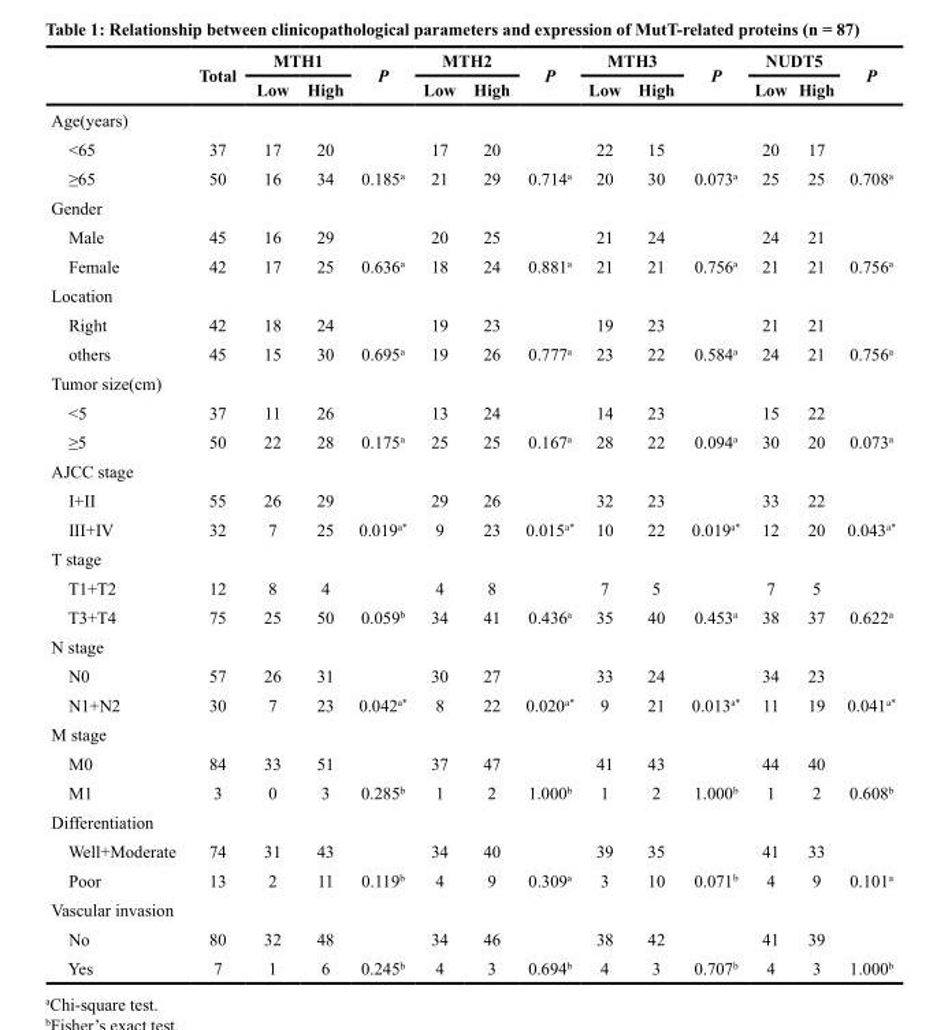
<table><thead><tr><td rowspan="2"></td><td rowspan="2">Total</td><td colspan="2">MTH1</td><td rowspan="2">P</td><td colspan="2">MTH2</td><td rowspan="2">P</td><td colspan="2">MTH3</td><td rowspan="2">P</td><td colspan="2">NUDT5</td><td rowspan="2">P</td></tr><tr><td>Low</td><td>High</td><td>Low</td><td>High</td><td>Low</td><td>High</td><td>Low</td><td>High</td></tr></thead><tbody><tr><td colspan="14">Age(years)</td></tr><tr><td>&lt;65</td><td>37</td><td>17</td><td>20</td><td></td><td>17</td><td>20</td><td></td><td>22</td><td>15</td><td></td><td>20</td><td>17</td><td></td></tr><tr><td>≥65</td><td>50</td><td>16</td><td>34</td><td>0.185<sup>a</sup></td><td>21</td><td>29</td><td>0.714<sup>a</sup></td><td>20</td><td>30</td><td>0.073<sup>a</sup></td><td>25</td><td>25</td><td>0.708<sup>a</sup></td></tr><tr><td colspan="14">Gender</td></tr><tr><td>Male</td><td>45</td><td>16</td><td>29</td><td></td><td>20</td><td>25</td><td></td><td>21</td><td>24</td><td></td><td>24</td><td>21</td><td></td></tr><tr><td>Female</td><td>42</td><td>17</td><td>25</td><td>0.636<sup>a</sup></td><td>18</td><td>24</td><td>0.881<sup>a</sup></td><td>21</td><td>21</td><td>0.756<sup>a</sup></td><td>21</td><td>21</td><td>0.756<sup>a</sup></td></tr><tr><td colspan="14">Location</td></tr><tr><td>Right</td><td>42</td><td>18</td><td>24</td><td></td><td>19</td><td>23</td><td></td><td>19</td><td>23</td><td></td><td>21</td><td>21</td><td></td></tr><tr><td>others</td><td>45</td><td>15</td><td>30</td><td>0.695<sup>a</sup></td><td>19</td><td>26</td><td>0.777<sup>a</sup></td><td>23</td><td>22</td><td>0.584<sup>a</sup></td><td>24</td><td>21</td><td>0.756<sup>a</sup></td></tr><tr><td colspan="14">Tumor size(cm)</td></tr><tr><td>&lt;5</td><td>37</td><td>11</td><td>26</td><td></td><td>13</td><td>24</td><td></td><td>14</td><td>23</td><td></td><td>15</td><td>22</td><td></td></tr><tr><td>≥5</td><td>50</td><td>22</td><td>28</td><td>0.175<sup>a</sup></td><td>25</td><td>25</td><td>0.167<sup>a</sup></td><td>28</td><td>22</td><td>0.094<sup>a</sup></td><td>30</td><td>20</td><td>0.073<sup>a</sup></td></tr><tr><td colspan="14">AJCC stage</td></tr><tr><td>I+II</td><td>55</td><td>26</td><td>29</td><td></td><td>29</td><td>26</td><td></td><td>32</td><td>23</td><td></td><td>33</td><td>22</td><td></td></tr><tr><td>III+IV</td><td>32</td><td>7</td><td>25</td><td>0.019<sup>a*</sup></td><td>9</td><td>23</td><td>0.015<sup>a*</sup></td><td>10</td><td>22</td><td>0.019<sup>a*</sup></td><td>12</td><td>20</td><td>0.043<sup>a*</sup></td></tr><tr><td colspan="14">T stage</td></tr><tr><td>T1+T2</td><td>12</td><td>8</td><td>4</td><td></td><td>4</td><td>8</td><td></td><td>7</td><td>5</td><td></td><td>7</td><td>5</td><td></td></tr><tr><td>T3+T4</td><td>75</td><td>25</td><td>50</td><td>0.059<sup>b</sup></td><td>34</td><td>41</td><td>0.436<sup>a</sup></td><td>35</td><td>40</td><td>0.453<sup>a</sup></td><td>38</td><td>37</td><td>0.622<sup>a</sup></td></tr><tr><td colspan="14">N stage</td></tr><tr><td>N0</td><td>57</td><td>26</td><td>31</td><td></td><td>30</td><td>27</td><td></td><td>33</td><td>24</td><td></td><td>34</td><td>23</td><td></td></tr><tr><td>N1+N2</td><td>30</td><td>7</td><td>23</td><td>0.042<sup>a*</sup></td><td>8</td><td>22</td><td>0.020<sup>a*</sup></td><td>9</td><td>21</td><td>0.013<sup>a*</sup></td><td>11</td><td>19</td><td>0.041<sup>a*</sup></td></tr><tr><td colspan="14">M stage</td></tr><tr><td>M0</td><td>84</td><td>33</td><td>51</td><td></td><td>37</td><td>47</td><td></td><td>41</td><td>43</td><td></td><td>44</td><td>40</td><td></td></tr><tr><td>M1</td><td>3</td><td>0</td><td>3</td><td>0.285<sup>b</sup></td><td>1</td><td>2</td><td>1.000<sup>b</sup></td><td>1</td><td>2</td><td>1.000<sup>b</sup></td><td>1</td><td>2</td><td>0.608<sup>b</sup></td></tr><tr><td colspan="14">Differentiation</td></tr><tr><td>Well+Moderate</td><td>74</td><td>31</td><td>43</td><td></td><td>34</td><td>40</td><td></td><td>39</td><td>35</td><td></td><td>41</td><td>33</td><td></td></tr><tr><td>Poor</td><td>13</td><td>2</td><td>11</td><td>0.119<sup>b</sup></td><td>4</td><td>9</td><td>0.309<sup>a</sup></td><td>3</td><td>10</td><td>0.071<sup>b</sup></td><td>4</td><td>9</td><td>0.101<sup>a</sup></td></tr><tr><td colspan="14">Vascular invasion</td></tr><tr><td>No</td><td>80</td><td>32</td><td>48</td><td></td><td>34</td><td>46</td><td></td><td>38</td><td>42</td><td></td><td>41</td><td>39</td><td></td></tr><tr><td>Yes</td><td>7</td><td>1</td><td>6</td><td>0.245<sup>b</sup></td><td>4</td><td>3</td><td>0.694<sup>b</sup></td><td>4</td><td>3</td><td>0.707<sup>b</sup></td><td>4</td><td>3</td><td>1.000<sup>b</sup></td></tr></tbody></table>